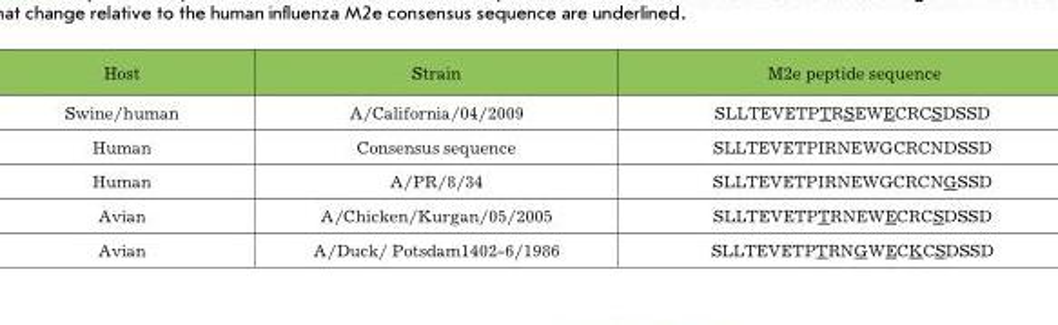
<table><thead><tr><td>Host</td><td>Strain</td><td>М2е peptide sequence</td></tr></thead><tbody><tr><td>Swine/human</td><td>A/California/04/2009</td><td>SLLTEVETPTRSEWECRCSDSSD</td></tr><tr><td>Human</td><td>Consensus sequence</td><td>SLLTEVETPIRNEWGCRCNDSSD</td></tr><tr><td>Human</td><td>A/PR/8/34</td><td>SLLTEVETPIRNEWGCRCNGSSD</td></tr><tr><td>Avian</td><td>A/Chicken/Kurgan/05/2005</td><td>SLLTEVETPTRNEWECRCSDSSD</td></tr><tr><td>Avian</td><td>A/Duck/ Potsdam1402-6/1986</td><td>SLLTEVETPTRNGWECKCSDSSD</td></tr></tbody></table>